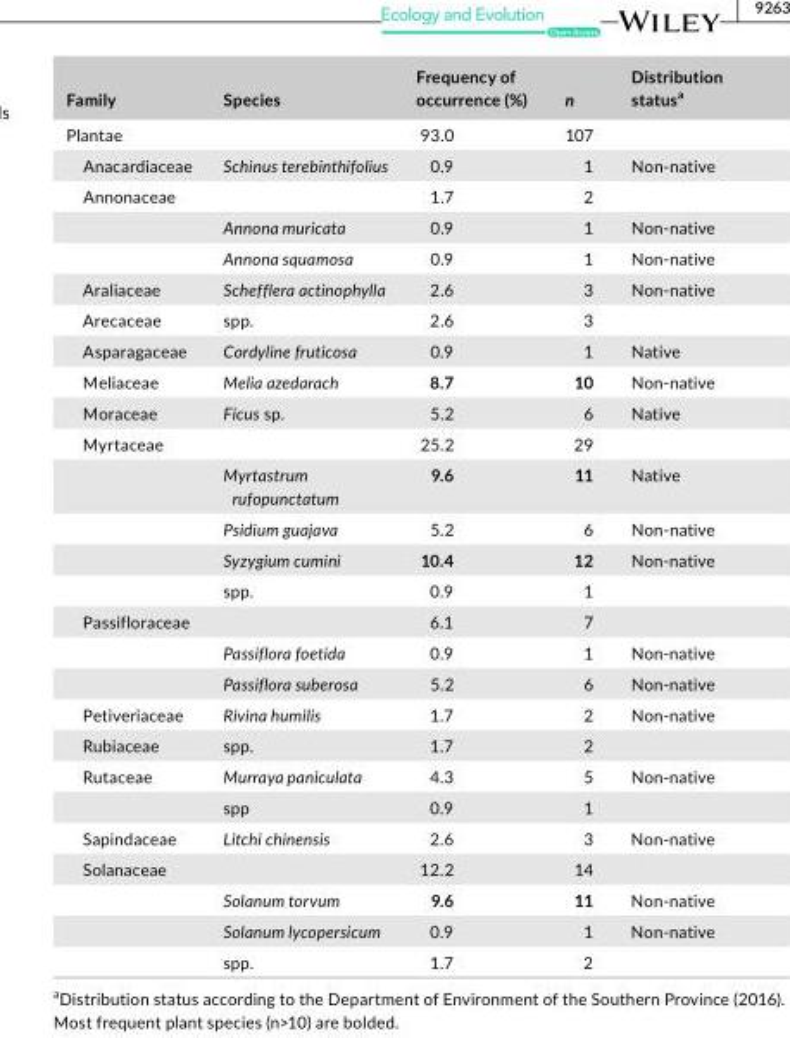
<table><thead><tr><td>Family</td><td>Species</td><td>Frequency of occurrence (%)</td><td>n</td><td>Distribution status<sup>a</sup></td></tr></thead><tbody><tr><td>Plantae</td><td></td><td>93.0</td><td>107</td><td></td></tr><tr><td>Anacardiaceae</td><td>Schinus terebinthifolius</td><td>0.9</td><td>1</td><td>Non- native</td></tr><tr><td rowspan="3">Annonaceae</td><td></td><td>1.7</td><td>2</td><td></td></tr><tr><td>Annona muricata</td><td>0.9</td><td>1</td><td>Non- native</td></tr><tr><td>Annona squamosa</td><td>0.9</td><td>1</td><td>Non- native</td></tr><tr><td>Araliaceae</td><td>Schefflera actinophylla</td><td>2.6</td><td>3</td><td>Non- native</td></tr><tr><td>Arecaceae</td><td>spp.</td><td>2.6</td><td>3</td><td></td></tr><tr><td>Asparagaceae</td><td>Cordyline fruticosa</td><td>0.9</td><td>1</td><td>Native</td></tr><tr><td>Meliaceae</td><td>Melia azedarach</td><td>8.7</td><td>10</td><td>Non- native</td></tr><tr><td>Moraceae</td><td>Ficus sp.</td><td>5.2</td><td>6</td><td>Native</td></tr><tr><td rowspan="5">Myrtaceae</td><td></td><td>25.2</td><td>29</td><td></td></tr><tr><td>Myrtastrum rufopunctatum</td><td>9.6</td><td>11</td><td>Native</td></tr><tr><td>Psidium guajava</td><td>5.2</td><td>6</td><td>Non- native</td></tr><tr><td>Syzygium cumini</td><td>10.4</td><td>12</td><td>Non- native</td></tr><tr><td>spp.</td><td>0.9</td><td>1</td><td></td></tr><tr><td rowspan="3">Passifloraceae</td><td></td><td>6.1</td><td>7</td><td></td></tr><tr><td>Passiflora foetida</td><td>0.9</td><td>1</td><td>Non- native</td></tr><tr><td>Passiflora suberosa</td><td>5.2</td><td>6</td><td>Non- native</td></tr><tr><td>Petiveriaceae</td><td>Rivina humilis</td><td>1.7</td><td>2</td><td>Non- native</td></tr><tr><td>Rubiaceae</td><td>spp.</td><td>1.7</td><td>2</td><td></td></tr><tr><td rowspan="2">Rutaceae</td><td>Murraya paniculata</td><td>4.3</td><td>5</td><td>Non- native</td></tr><tr><td>spp</td><td>0.9</td><td>1</td><td></td></tr><tr><td>Sapindaceae</td><td>Litchi chinensis</td><td>2.6</td><td>3</td><td>Non- native</td></tr><tr><td rowspan="4">Solanaceae</td><td></td><td>12.2</td><td>14</td><td></td></tr><tr><td>Solanum torvum</td><td>9.6</td><td>11</td><td>Non- native</td></tr><tr><td>Solanum lycopersicum</td><td>0.9</td><td>1</td><td>Non- native</td></tr><tr><td>spp.</td><td>1.7</td><td>2</td><td></td></tr></tbody></table>